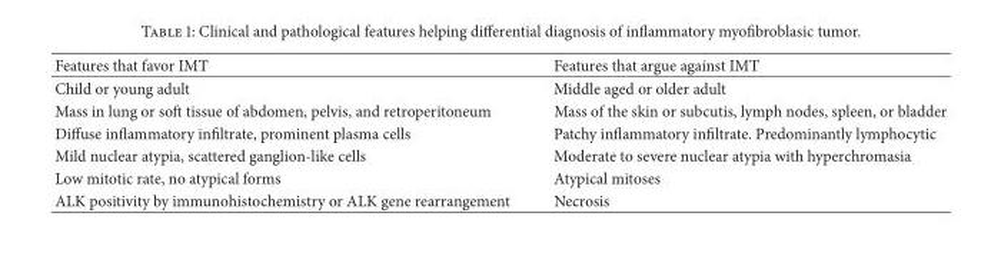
<table><thead><tr><td>Features that favor IMT</td><td>Features that argue against IMT</td></tr></thead><tbody><tr><td>Child or young adult</td><td>Middle aged or older adult</td></tr><tr><td>Mass in lung or soft tissue of abdomen, pelvis, and retroperitoneum</td><td>Mass of the skin or subcutis, lymph nodes, spleen, or bladder</td></tr><tr><td>Diffuse inflammatory infiltrate, prominent plasma cells</td><td>Patchy inflammatory infiltrate. Predominantly lymphocytic</td></tr><tr><td>Mild nuclear atypia, scattered ganglion-like cells</td><td>Moderate to severe nuclear atypia with hyperchromasia</td></tr><tr><td>Low mitotic rate, no atypical forms</td><td>Atypical mitoses</td></tr><tr><td>ALK positivity by immunohistochemistry or ALK gene rearrangement</td><td>Necrosis</td></tr></tbody></table>